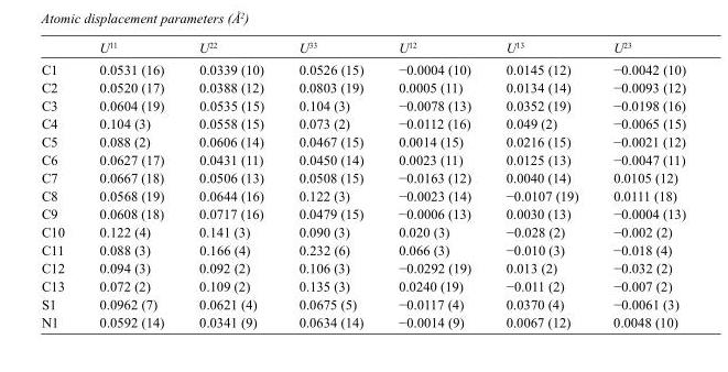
<table><thead><tr><td></td><td>U<sup>11</sup></td><td>U<sup>22</sup></td><td>U<sup>33</sup></td><td>U<sup>12</sup></td><td>U<sup>13</sup></td><td>U<sup>23</sup></td></tr></thead><tbody><tr><td>C1</td><td>0.0531 (16)</td><td>0.0339 (10)</td><td>0.0526 (15)</td><td>−0.0004 (10)</td><td>0.0145 (12)</td><td>−0.0042 (10)</td></tr><tr><td>C2</td><td>0.0520 (17)</td><td>0.0388 (12)</td><td>0.0803 (19)</td><td>0.0005 (11)</td><td>0.0134 (14)</td><td>−0.0093 (12)</td></tr><tr><td>C3</td><td>0.0604 (19)</td><td>0.0535 (15)</td><td>0.104 (3)</td><td>−0.0078 (13)</td><td>0.0352 (19)</td><td>−0.0198 (16)</td></tr><tr><td>C4</td><td>0.104 (3)</td><td>0.0558 (15)</td><td>0.073 (2)</td><td>−0.0112 (16)</td><td>0.049 (2)</td><td>−0.0065 (15)</td></tr><tr><td>C5</td><td>0.088 (2)</td><td>0.0606 (14)</td><td>0.0467 (15)</td><td>0.0014 (15)</td><td>0.0216 (15)</td><td>−0.0021 (12)</td></tr><tr><td>C6</td><td>0.0627 (17)</td><td>0.0431 (11)</td><td>0.0450 (14)</td><td>0.0023 (11)</td><td>0.0125 (13)</td><td>−0.0047 (11)</td></tr><tr><td>C7</td><td>0.0667 (18)</td><td>0.0506 (13)</td><td>0.0508 (15)</td><td>−0.0163 (12)</td><td>0.0040 (14)</td><td>0.0105 (12)</td></tr><tr><td>C8</td><td>0.0568 (19)</td><td>0.0644 (16)</td><td>0.122 (3)</td><td>−0.0023 (14)</td><td>−0.0107 (19)</td><td>0.0111 (18)</td></tr><tr><td>C9</td><td>0.0608 (18)</td><td>0.0717 (16)</td><td>0.0479 (15)</td><td>−0.0006 (13)</td><td>0.0030 (13)</td><td>−0.0004 (13)</td></tr><tr><td>C10</td><td>0.122 (4)</td><td>0.141 (3)</td><td>0.090 (3)</td><td>0.020 (3)</td><td>−0.028 (2)</td><td>−0.002 (2)</td></tr><tr><td>C11</td><td>0.088 (3)</td><td>0.166 (4)</td><td>0.232 (6)</td><td>0.066 (3)</td><td>−0.010 (3)</td><td>−0.018 (4)</td></tr><tr><td>C12</td><td>0.094 (3)</td><td>0.092 (2)</td><td>0.106 (3)</td><td>−0.0292 (19)</td><td>0.013 (2)</td><td>−0.032 (2)</td></tr><tr><td>C13</td><td>0.072 (2)</td><td>0.109 (2)</td><td>0.135 (3)</td><td>0.0240 (19)</td><td>−0.011 (2)</td><td>−0.007 (2)</td></tr><tr><td>S1</td><td>0.0962 (7)</td><td>0.0621 (4)</td><td>0.0675 (5)</td><td>−0.0117 (4)</td><td>0.0370 (4)</td><td>−0.0061 (3)</td></tr><tr><td>N1</td><td>0.0592 (14)</td><td>0.0341 (9)</td><td>0.0634 (14)</td><td>−0.0014 (9)</td><td>0.0067 (12)</td><td>0.0048 (10)</td></tr></tbody></table>